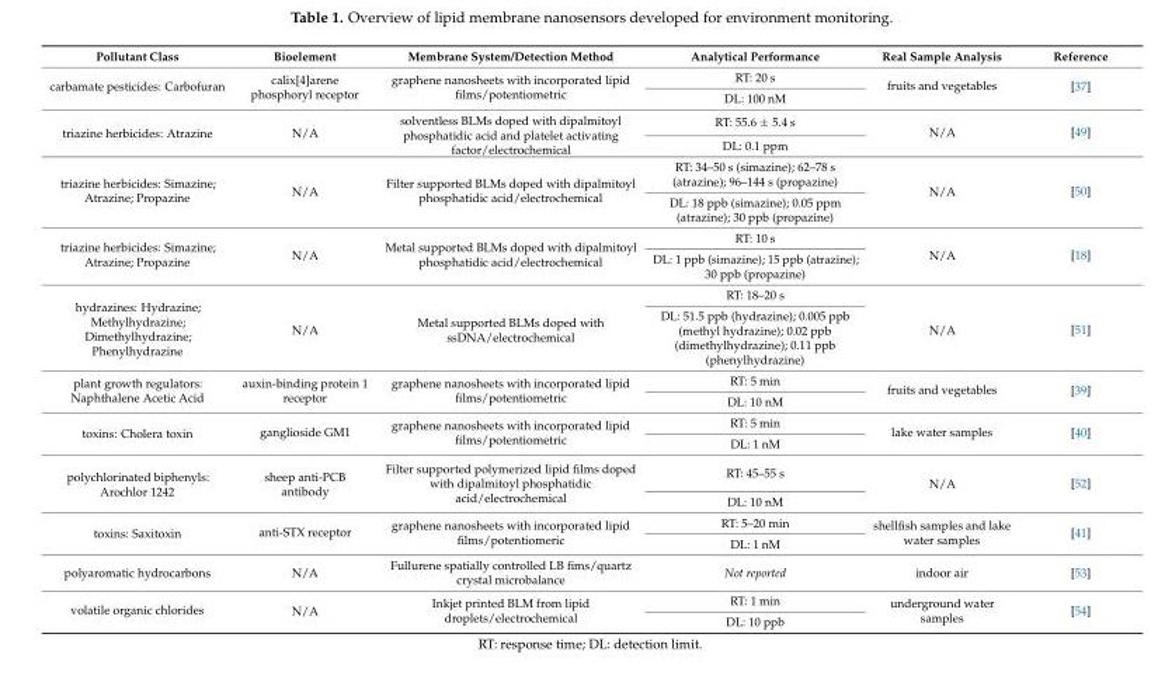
<table><thead><tr><td>Pollutant Class</td><td>Bioelement</td><td>Membrane System/Detection Method</td><td>Analytical Performance</td><td>Real Sample Analysis</td><td>Reference</td></tr></thead><tbody><tr><td rowspan="2">carbamate pesticides: Carbofuran</td><td rowspan="2">calix[4]arene phosphoryl receptor</td><td rowspan="2">graphene nanosheets with incorporated lipid films/potentiometric</td><td>RT: 20 s</td><td rowspan="2">fruits and vegetables</td><td rowspan="2">[37]</td></tr><tr><td>DL: 100 nM</td></tr><tr><td rowspan="2">triazine herbicides: Atrazine</td><td rowspan="2">N/A</td><td rowspan="2">solventless BLMs doped with dipalmitoyl phosphatidic acid and platelet activating factor/electrochemical</td><td>RT: 55.6 ± 5.4 s</td><td rowspan="2">N/A</td><td rowspan="2">[49]</td></tr><tr><td>DL: 0.1 ppm</td></tr><tr><td rowspan="2">triazine herbicides: Simazine; Atrazine; Propazine</td><td rowspan="2">N/A</td><td rowspan="2">Filter supported BLMs doped with dipalmitoyl phosphatidic acid/electrochemical</td><td>RT: 34–50 s (simazine); 62–78 s (atrazine); 96–144 s (propazine)</td><td rowspan="2">N/A</td><td rowspan="2">[50]</td></tr><tr><td>DL: 18 ppb (simazine); 0.05 ppm (atrazine); 30 ppb (propazine)</td></tr><tr><td rowspan="2">triazine herbicides: Simazine; Atrazine; Propazine</td><td rowspan="2">N/A</td><td rowspan="2">Metal supported BLMs doped with dipalmitoyl phosphatidic acid/electrochemical</td><td>RT: 10 s</td><td rowspan="2">N/A</td><td rowspan="2">[18]</td></tr><tr><td>DL: 1 ppb (simazine); 15 ppb (atrazine); 30 ppb (propazine)</td></tr><tr><td rowspan="2">hydrazines: Hydrazine; Methylhydrazine; Dimethylhydrazine; Phenylhydrazine</td><td rowspan="2">N/A</td><td rowspan="2">Metal supported BLMs doped with ssDNA/electrochemical</td><td>RT: 18–20 s</td><td rowspan="2">N/A</td><td rowspan="2">[51]</td></tr><tr><td>DL: 51.5 ppb (hydrazine); 0.005 ppb (methyl hydrazine); 0.02 ppb (dimethylhydrazine); 0.11 ppb (phenylhydrazine)</td></tr><tr><td rowspan="2">plant growth regulators: Naphthalene Acetic Acid</td><td rowspan="2">auxin-binding protein 1 receptor</td><td rowspan="2">graphene nanosheets with incorporated lipid films/potentiometric</td><td>RT: 5 min</td><td rowspan="2">fruits and vegetables</td><td rowspan="2">[39]</td></tr><tr><td>DL: 10 nM</td></tr><tr><td rowspan="2">toxins: Cholera toxin</td><td rowspan="2">ganglioside GM1</td><td rowspan="2">graphene nanosheets with incorporated lipid films/potentiometric</td><td>RT: 5 min</td><td rowspan="2">lake water samples</td><td rowspan="2">[40]</td></tr><tr><td>DL: 1 nM</td></tr><tr><td rowspan="2">polychlorinated biphenyls: Arochlor 1242</td><td rowspan="2">sheep anti-PCB antibody</td><td rowspan="2">Filter supported polymerized lipid films doped with dipalmitoyl phosphatidic acid/electrochemical</td><td>RT: 45–55 s</td><td rowspan="2">N/A</td><td rowspan="2">[52]</td></tr><tr><td>DL: 10 nM</td></tr><tr><td rowspan="2">toxins: Saxitoxin</td><td rowspan="2">anti-STX receptor</td><td rowspan="2">graphene nanosheets with incorporated lipid films/potentiomeric</td><td>RT: 5–20 min</td><td rowspan="2">shellfish samples and lake water samples</td><td rowspan="2">[41]</td></tr><tr><td>DL: 1 nM</td></tr><tr><td>polyaromatic hydrocarbons</td><td>N/A</td><td>Fullurene spatially controlled LB fims/quartz crystal microbalance</td><td>Not reported</td><td>indoor air</td><td>[53]</td></tr><tr><td rowspan="2">volatile organic chlorides</td><td rowspan="2">N/A</td><td rowspan="2">Inkjet printed BLM from lipid droplets/electrochemical</td><td>RT: 1 min</td><td rowspan="2">underground water samples</td><td rowspan="2">[54]</td></tr><tr><td>DL: 10 ppb</td></tr></tbody></table>